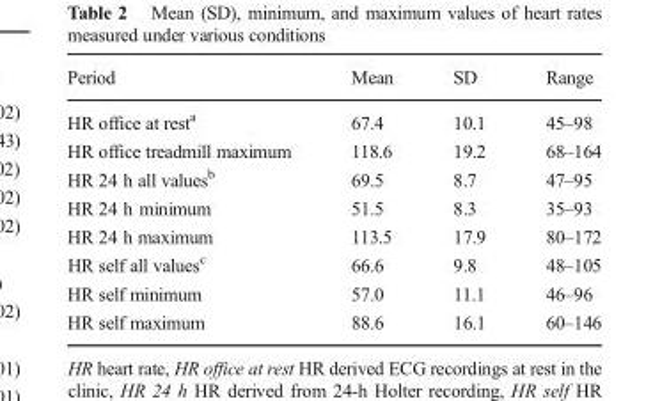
<table><thead><tr><td>Period</td><td>Mean</td><td>SD</td><td>Range</td></tr></thead><tbody><tr><td>HR office at rest<sup>a</sup></td><td>67.4</td><td>10.1</td><td>45–98</td></tr><tr><td>HR office treadmill maximum</td><td>118.6</td><td>19.2</td><td>68–164</td></tr><tr><td>HR 24 h all values<sup>b</sup></td><td>69.5</td><td>8.7</td><td>47–95</td></tr><tr><td>HR 24 h minimum</td><td>51.5</td><td>8.3</td><td>35–93</td></tr><tr><td>HR 24 h maximum</td><td>113.5</td><td>17.9</td><td>80–172</td></tr><tr><td>HR self all values<sup>c</sup></td><td>66.6</td><td>9.8</td><td>48–105</td></tr><tr><td>HR self minimum</td><td>57.0</td><td>11.1</td><td>46–96</td></tr><tr><td>HR self maximum</td><td>88.6</td><td>16.1</td><td>60–146</td></tr></tbody></table>